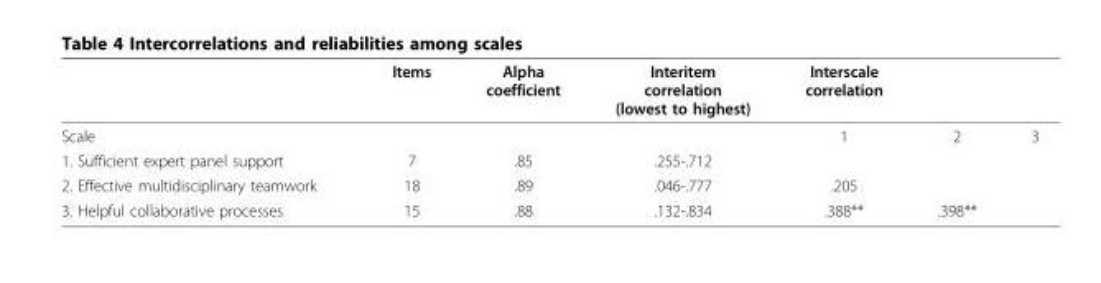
<table><thead><tr><td></td><td>Items</td><td>Alpha coefficient</td><td>Interitem correlation (lowest to highest)</td><td>Interscale correlation</td><td></td><td></td></tr></thead><tbody><tr><td>Scale</td><td></td><td></td><td></td><td>1</td><td>2</td><td>3</td></tr><tr><td>1. Sufficient expert panel support</td><td>7</td><td>.85</td><td>.255-.712</td><td></td><td></td><td></td></tr><tr><td>2. Effective multidisciplinary teamwork</td><td>18</td><td>.89</td><td>.046-.777</td><td>.205</td><td></td><td></td></tr><tr><td>3. Helpful collaborative processes</td><td>15</td><td>.88</td><td>.132-.834</td><td>.388**</td><td>.398**</td><td></td></tr></tbody></table>